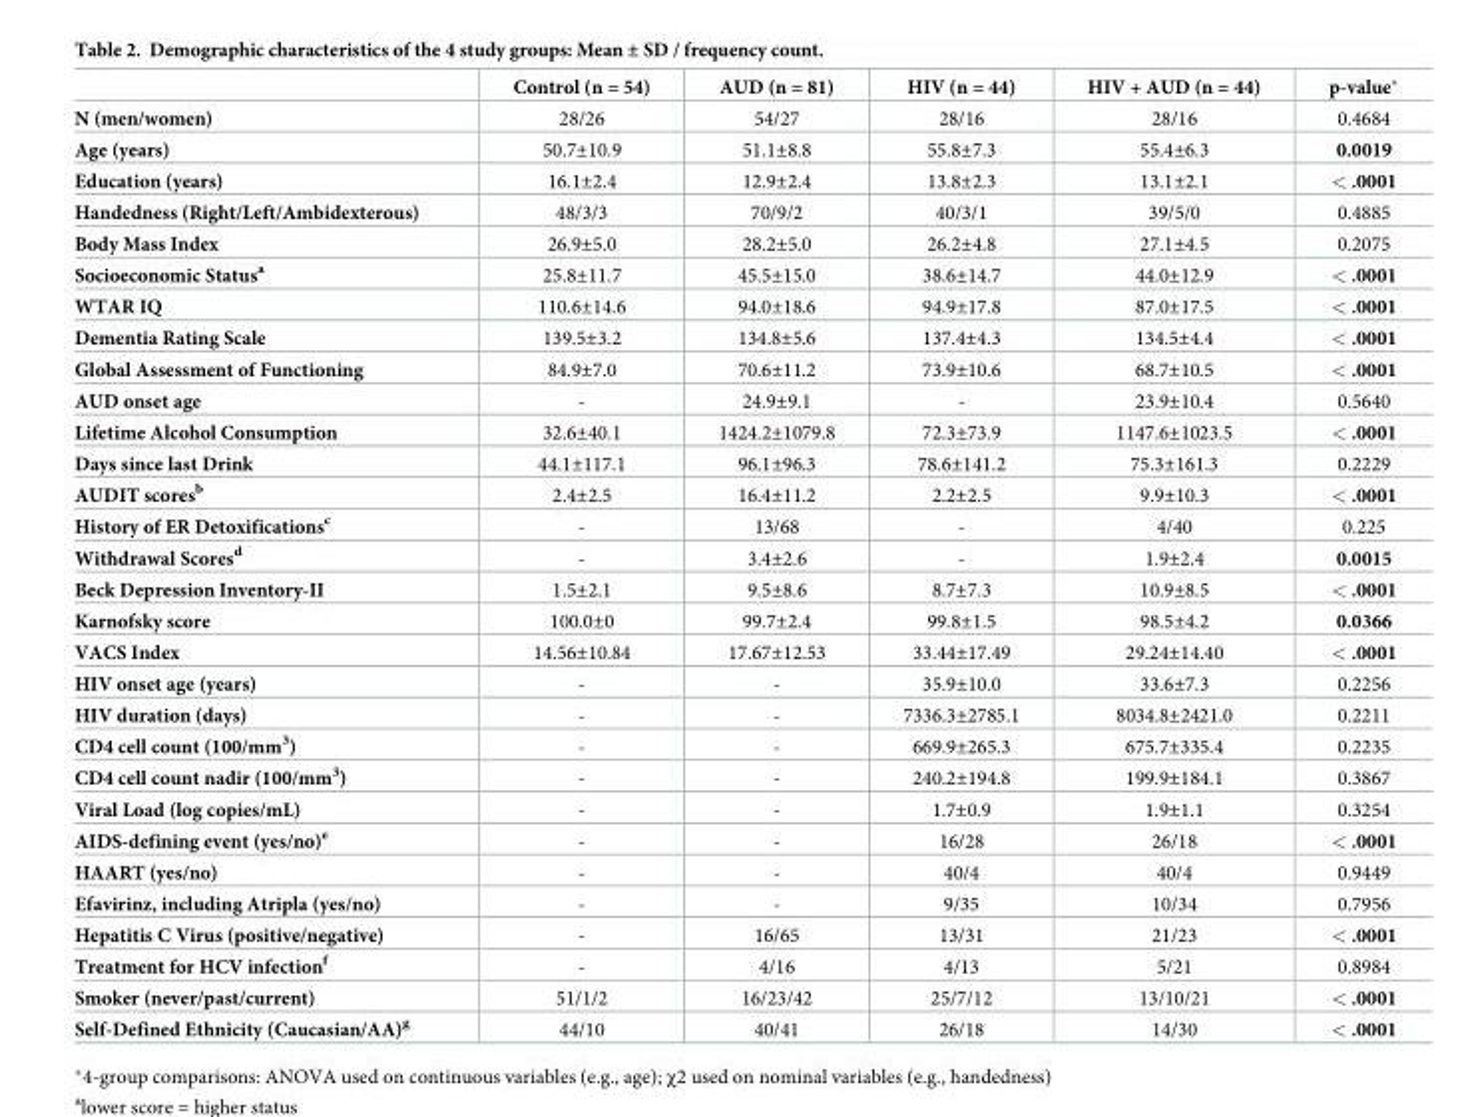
<table><thead><tr><td></td><td>Control (n = 54)</td><td>AUD (n = 81)</td><td>HIV (n = 44)</td><td>HIV + AUD (n = 44)</td><td>p-value*</td></tr></thead><tbody><tr><td>N (men/women)</td><td>28/26</td><td>54/27</td><td>28/16</td><td>28/16</td><td>0.4684</td></tr><tr><td>Age (years)</td><td>50.7±10.9</td><td>51.1±8.8</td><td>55.8±7.3</td><td>55.4±6.3</td><td>0.0019</td></tr><tr><td>Education (years)</td><td>16.1±2.4</td><td>12.9±2.4</td><td>13.8±2.3</td><td>13.1±2.1</td><td>&lt; .0001</td></tr><tr><td>Handedness (Right/Left/Ambidexterous)</td><td>48/3/3</td><td>70/9/2</td><td>40/3/1</td><td>39/5/0</td><td>0.4885</td></tr><tr><td>Body Mass Index</td><td>26.9±5.0</td><td>28.2±5.0</td><td>26.2±4.8</td><td>27.1±4.5</td><td>0.2075</td></tr><tr><td>Socioeconomic Status<sup>a</sup></td><td>25.8±11.7</td><td>45.5±15.0</td><td>38.6±14.7</td><td>44.0±12.9</td><td>&lt; .0001</td></tr><tr><td>WTAR IQ</td><td>110.6±14.6</td><td>94.0±18.6</td><td>94.9±17.8</td><td>87.0±17.5</td><td>&lt; .0001</td></tr><tr><td>Dementia Rating Scale</td><td>139.5±3.2</td><td>134.8±5.6</td><td>137.4±4.3</td><td>134.5±4.4</td><td>&lt; .0001</td></tr><tr><td>Global Assessment of Functioning</td><td>84.9±7.0</td><td>70.6±11.2</td><td>73.9±10.6</td><td>68.7±10.5</td><td>&lt; .0001</td></tr><tr><td>AUD onset age</td><td>-</td><td>24.9±9.1</td><td>-</td><td>23.9±10.4</td><td>0.5640</td></tr><tr><td>Lifetime Alcohol Consumption</td><td>32.6±40.1</td><td>1424.2±1079.8</td><td>72.3±73.9</td><td>1147.6±1023.5</td><td>&lt; .0001</td></tr><tr><td>Days since last Drink</td><td>44.1±117.1</td><td>96.1±96.3</td><td>78.6±141.2</td><td>75.3±161.3</td><td>0.2229</td></tr><tr><td>AUDIT scores<sup>b</sup></td><td>2.4±2.5</td><td>16.4±11.2</td><td>2.2±2.5</td><td>9.9±10.3</td><td>&lt; .0001</td></tr><tr><td>History of ER Detoxifications<sup>c</sup></td><td>-</td><td>13/68</td><td>-</td><td>4/40</td><td>0.225</td></tr><tr><td>Withdrawal Scores<sup>d</sup></td><td>-</td><td>3.4±2.6</td><td>-</td><td>1.9±2.4</td><td>0.0015</td></tr><tr><td>Beck Depression Inventory-II</td><td>1.5±2.1</td><td>9.5±8.6</td><td>8.7±7.3</td><td>10.9±8.5</td><td>&lt; .0001</td></tr><tr><td>Karnofsky score</td><td>100.0±0</td><td>99.7±2.4</td><td>99.8±1.5</td><td>98.5±4.2</td><td>0.0366</td></tr><tr><td>VACS Index</td><td>14.56±10.84</td><td>17.67±12.53</td><td>33.44±17.49</td><td>29.24±14.40</td><td>&lt; .0001</td></tr><tr><td>HIV onset age (years)</td><td>-</td><td>-</td><td>35.9±10.0</td><td>33.6±7.3</td><td>0.2256</td></tr><tr><td>HIV duration (days)</td><td>-</td><td>-</td><td>7336.3±2785.1</td><td>8034.8±2421.0</td><td>0.2211</td></tr><tr><td>CD4 cell count (100/mm<sup>3</sup>)</td><td>-</td><td>-</td><td>669.9±265.3</td><td>675.7±335.4</td><td>0.2235</td></tr><tr><td>CD4 cell count nadir (100/mm<sup>3</sup>)</td><td>-</td><td>-</td><td>240.2±194.8</td><td>199.9±184.1</td><td>0.3867</td></tr><tr><td>Viral Load (log copies/mL)</td><td>-</td><td>-</td><td>1.7±0.9</td><td>1.9±1.1</td><td>0.3254</td></tr><tr><td>AIDS-defining event (yes/no)<sup>e</sup></td><td>-</td><td>-</td><td>16/28</td><td>26/18</td><td>&lt; .0001</td></tr><tr><td>HAART (yes/no)</td><td>-</td><td>-</td><td>40/4</td><td>40/4</td><td>0.9449</td></tr><tr><td>Efavirinz, including Atripla (yes/no)</td><td>-</td><td>-</td><td>9/35</td><td>10/34</td><td>0.7956</td></tr><tr><td>Hepatitis C Virus (positive/negative)</td><td>-</td><td>16/65</td><td>13/31</td><td>21/23</td><td>&lt; .0001</td></tr><tr><td>Treatment for HCV infection<sup>f</sup></td><td>-</td><td>4/16</td><td>4/13</td><td>5/21</td><td>0.8984</td></tr><tr><td>Smoker (never/past/current)</td><td>51/1/2</td><td>16/23/42</td><td>25/7/12</td><td>13/10/21</td><td>&lt; .0001</td></tr><tr><td>Self-Defined Ethnicity (Caucasian/AA)<sup>g</sup></td><td>44/10</td><td>40/41</td><td>26/18</td><td>14/30</td><td>&lt; .0001</td></tr></tbody></table>